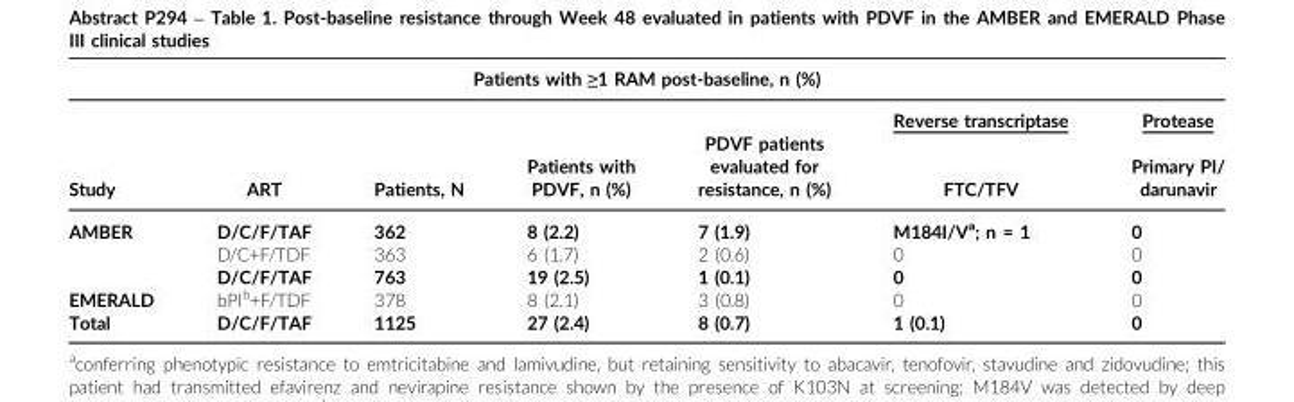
<table><thead><tr><td colspan="7">Patients with ≥1 RAM post-baseline, n (%)</td></tr><tr><td rowspan="2">Study</td><td rowspan="2">ART</td><td rowspan="2">Patients, N</td><td rowspan="2">Patients with PDVF, n (%)</td><td rowspan="2">PDVF patients evaluated for resistance, n (%)</td><td rowspan="2">Reverse transcriptase FTC/TFV</td><td rowspan="2">Protease Primary PI/ darunavir</td></tr><tr></tr></thead><tbody><tr><td rowspan="3">AMBER</td><td>D/C/F/TAF</td><td>362</td><td>8 (2.2)</td><td>7 (1.9)</td><td>M184I/V<sup>a</sup>; n = 1</td><td>0</td></tr><tr><td>D/C+F/TDF</td><td>363</td><td>6 (1.7)</td><td>2 (0.6)</td><td>0</td><td>0</td></tr><tr><td>D/C/F/TAF</td><td>763</td><td>19 (2.5)</td><td>1 (0.1)</td><td>0</td><td>0</td></tr><tr><td>EMERALD</td><td>bPI<sup>b</sup>+F/TDF</td><td>378</td><td>8 (2.1)</td><td>3 (0.8)</td><td>0</td><td>0</td></tr><tr><td>Total</td><td>D/C/F/TAF</td><td>1125</td><td>27 (2.4)</td><td>8 (0.7)</td><td>1 (0.1)</td><td>0</td></tr></tbody></table>